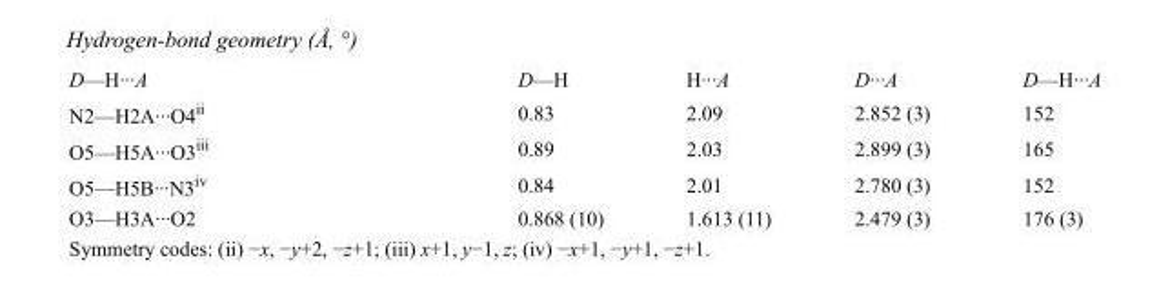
<table><tbody><tr><td>D—H···A</td><td>D—H</td><td>H···A</td><td>D···A</td><td>D—H···A</td></tr><tr><td>N2—H2A···O4<sup>ii</sup></td><td>0.83</td><td>2.09</td><td>2.852 (3)</td><td>152</td></tr><tr><td>O5—H5A···O3<sup>iii</sup></td><td>0.89</td><td>2.03</td><td>2.899 (3)</td><td>165</td></tr><tr><td>O5—H5B···N3<sup>iv</sup></td><td>0.84</td><td>2.01</td><td>2.780 (3)</td><td>152</td></tr><tr><td>O3—H3A···O2</td><td>0.868 (10)</td><td>1.613 (11)</td><td>2.479 (3)</td><td>176 (3)</td></tr></tbody></table>